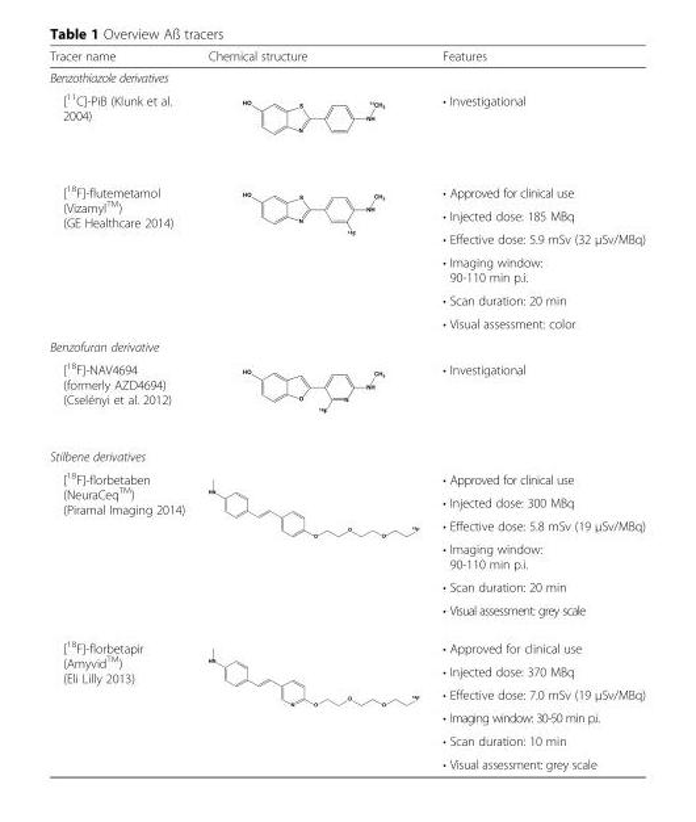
<table><thead><tr><td>Tracer name</td><td>Chemical structure</td><td>Features</td></tr></thead><tbody><tr><td colspan="3">Benzothiazole derivatives</td></tr><tr><td>[<sup>11</sup>C]-PiB (Klunk et al. 2004)</td><td></td><td>• Investigational</td></tr><tr><td rowspan="6">[<sup>18</sup>F]-flutemetamol (Vizamyl<sup>TM</sup>) (GE Healthcare 2014)</td><td rowspan="6"></td><td>• Approved for clinical use</td></tr><tr><td>• Injected dose: 185 MBq</td></tr><tr><td>• Effective dose: 5.9 mSv (32 μSv/MBq)</td></tr><tr><td>• Imaging window: 90-110 min p.i.</td></tr><tr><td>• Scan duration: 20 min</td></tr><tr><td>• Visual assessment: color</td></tr><tr><td colspan="3">Benzofuran derivative</td></tr><tr><td>[<sup>18</sup>F]-NAV4694 (formerly AZD4694) (Cselényi et al. 2012)</td><td></td><td>• Investigational</td></tr><tr><td colspan="3">Stilbene derivatives</td></tr><tr><td rowspan="6">[<sup>18</sup>F]-florbetaben (NeuraCeq<sup>TM</sup>) (Piramal Imaging 2014)</td><td rowspan="6"></td><td>• Approved for clinical use</td></tr><tr><td>• Injected dose: 300 MBq</td></tr><tr><td>• Effective dose: 5.8 mSv (19 μSv/MBq)</td></tr><tr><td>• Imaging window: 90-110 min p.i.</td></tr><tr><td>• Scan duration: 20 min</td></tr><tr><td>• Visual assessment: grey scale</td></tr><tr><td rowspan="6">[<sup>18</sup>F]-florbetapir (Amyvid<sup>TM</sup>) (Eli Lilly 2013)</td><td rowspan="6"></td><td>• Approved for clinical use</td></tr><tr><td>• Injected dose: 370 MBq</td></tr><tr><td>• Effective dose: 7.0 mSv (19 μSv/MBq)</td></tr><tr><td>• Imaging window: 30-50 min p.i.</td></tr><tr><td>• Scan duration: 10 min</td></tr><tr><td>• Visual assessment: grey scale</td></tr></tbody></table>